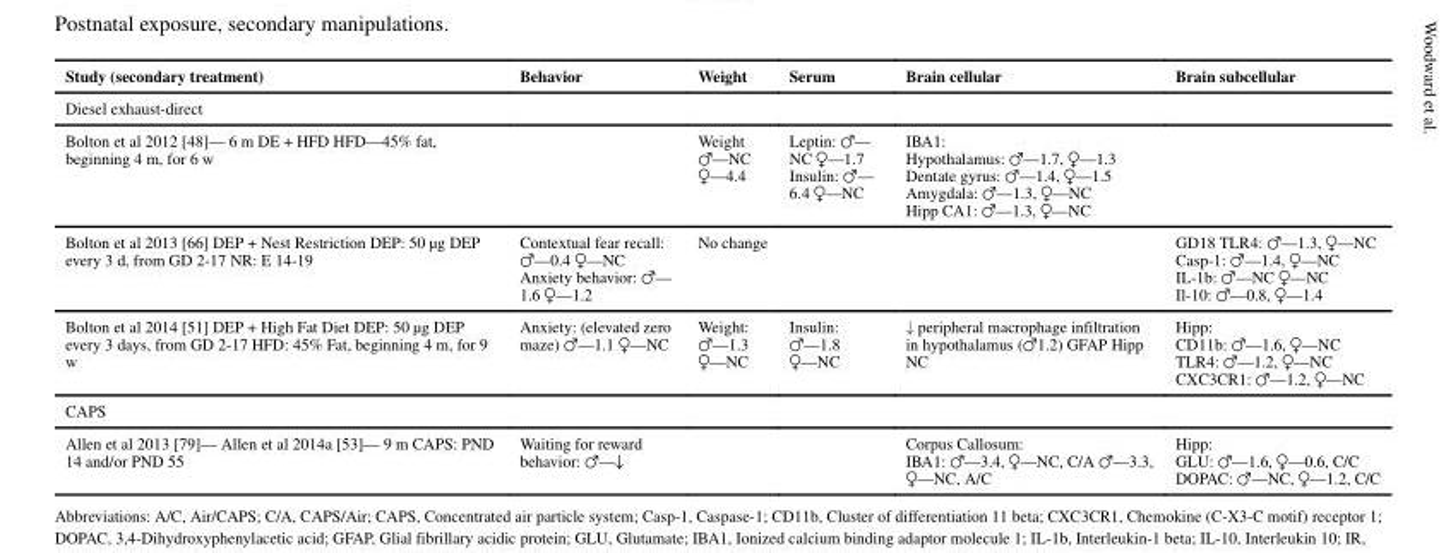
<table><thead><tr><td>Study (secondary treatment)</td><td>Behavior</td><td>Weight</td><td>Serum</td><td>Brain cellular</td><td>Brain subcellular</td></tr></thead><tbody><tr><td colspan="6">Diesel exhaust-direct</td></tr><tr><td>Bolton et al 2012 [48]— 6 m DE + HFD HFD—45% fat, beginning 4 m, for 6 w</td><td></td><td>Weight ♂—NC ♀—4.4</td><td>Leptin: ♂— NC ♀—1.7 Insulin: ♂— 6.4 ♀—NC</td><td>IBA1: Hypothalamus: ♂—1.7, ♀—1.3 Dentate gyrus: ♂—1.4, ♀—1.5 Amygdala: ♂—1.3, ♀—NC Hipp CA1: ♂—1.3, ♀—NC</td><td></td></tr><tr><td>Bolton et al 2013 [66] DEP + Nest Restriction DEP: 50 μg DEP every 3 d, from GD 2-17 NR: E 14-19</td><td>Contextual fear recall: ♂—0.4 ♀—NC Anxiety behavior: ♂— 1.6 ♀—1.2</td><td>No change</td><td></td><td></td><td>GD18 TLR4: ♂—1.3, ♀—NC Casp-1: ♂—1.4, ♀—NC IL-1b: ♂—NC ♀—NC Il-10: ♂—0.8, ♀—1.4</td></tr><tr><td>Bolton et al 2014 [51] DEP + High Fat Diet DEP: 50 μg DEP every 3 days, from GD 2-17 HFD: 45% Fat, beginning 4 m, for 9 w</td><td>Anxiety: (elevated zero maze) ♂—1.1 ♀—NC</td><td>Weight: ♂—1.3 ♀—NC</td><td>Insulin: ♂—1.8 ♀—NC</td><td>↓ peripheral macrophage infiltration in hypothalamus (♂1.2) GFAP Hipp NC</td><td>Hipp: CD11b: ♂—1.6, ♀—NC TLR4: ♂—1.2, ♀—NC CXC3CR1: ♂—1.2, ♀—NC</td></tr><tr><td colspan="6">CAPS</td></tr><tr><td>Allen et al 2013 [79]— Allen et al 2014a [53]— 9 m CAPS: PND 14 and/or PND 55</td><td>Waiting for reward behavior: ♂—↓</td><td></td><td></td><td>Corpus Callosum: IBA1: ♂—3.4, ♀—NC, C/A ♂—3.3, ♀—NC, A/C</td><td>Hipp: GLU: ♂—1.6, ♀—0.6, C/C DOPAC: ♂—NC, ♀—1.2, C/C</td></tr></tbody></table>